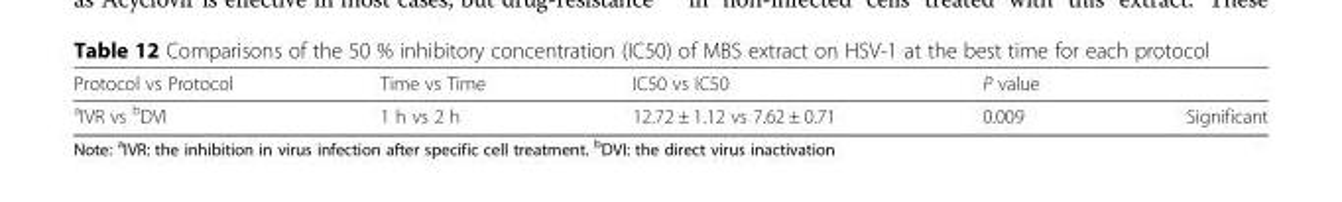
<table><thead><tr><td>Protocol vs Protocol</td><td>Time vs Time</td><td>IC50 vs IC50</td><td>P value</td><td></td></tr></thead><tbody><tr><td><sup>a</sup>IVR vs <sup>b</sup>DVI</td><td>1 h vs 2 h</td><td>12.72 ± 1.12 vs 7.62 ± 0.71</td><td>0.009</td><td>Significant</td></tr></tbody></table>